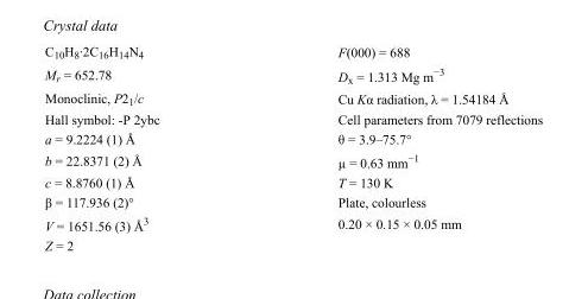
<table><tbody><tr><td>C<sub>10</sub>H<sub>8</sub>·2C<sub>16</sub>H<sub>14</sub>N<sub>4</sub></td><td>F(000) = 688</td></tr><tr><td>M<sub>r</sub> = 652.78</td><td>D<sub>x</sub> = 1.313 Mg m<sup>−3</sup></td></tr><tr><td>Monoclinic, P2<sub>1</sub>/c</td><td>Cu Kα radiation, λ = 1.54184 Å</td></tr><tr><td>Hall symbol: -P 2ybc</td><td>Cell parameters from 7079 reflections</td></tr><tr><td>a = 9.2224 (1) Å</td><td>θ = 3.9–75.7°</td></tr><tr><td>b = 22.8371 (2) Å</td><td>µ = 0.63 mm<sup>−1</sup></td></tr><tr><td>c = 8.8760 (1) Å</td><td>T = 130 K</td></tr><tr><td>β = 117.936 (2)°</td><td>Plate, colourless</td></tr><tr><td>V = 1651.56 (3) Å<sup>3</sup></td><td>0.20 × 0.15 × 0.05 mm</td></tr><tr><td>Z = 2</td><td></td></tr></tbody></table>